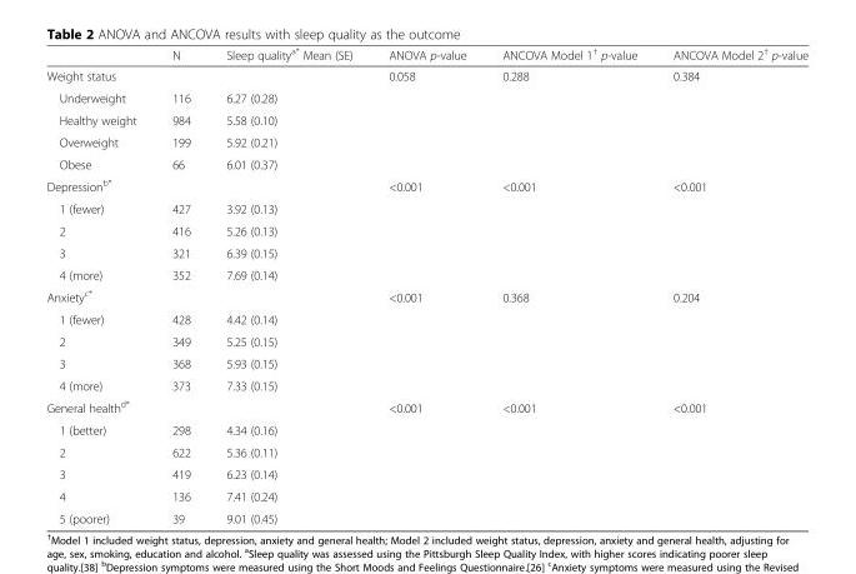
<table><thead><tr><td></td><td>N</td><td>Sleep quality<sup>a*</sup> Mean (SE)</td><td>ANOVA p-value</td><td>ANCOVA Model 1<sup>†</sup> p-value</td><td>ANCOVA Model 2<sup>†</sup> p-value</td></tr></thead><tbody><tr><td>Weight status</td><td></td><td></td><td>0.058</td><td>0.288</td><td>0.384</td></tr><tr><td>Underweight</td><td>116</td><td>6.27 (0.28)</td><td></td><td></td><td></td></tr><tr><td>Healthy weight</td><td>984</td><td>5.58 (0.10)</td><td></td><td></td><td></td></tr><tr><td>Overweight</td><td>199</td><td>5.92 (0.21)</td><td></td><td></td><td></td></tr><tr><td>Obese</td><td>66</td><td>6.01 (0.37)</td><td></td><td></td><td></td></tr><tr><td>Depression<sup>b*</sup></td><td></td><td></td><td>&lt;0.001</td><td>&lt;0.001</td><td>&lt;0.001</td></tr><tr><td>1 (fewer)</td><td>427</td><td>3.92 (0.13)</td><td></td><td></td><td></td></tr><tr><td>2</td><td>416</td><td>5.26 (0.13)</td><td></td><td></td><td></td></tr><tr><td>3</td><td>321</td><td>6.39 (0.15)</td><td></td><td></td><td></td></tr><tr><td>4 (more)</td><td>352</td><td>7.69 (0.14)</td><td></td><td></td><td></td></tr><tr><td>Anxiety<sup>c*</sup></td><td></td><td></td><td>&lt;0.001</td><td>0.368</td><td>0.204</td></tr><tr><td>1 (fewer)</td><td>428</td><td>4.42 (0.14)</td><td></td><td></td><td></td></tr><tr><td>2</td><td>349</td><td>5.25 (0.15)</td><td></td><td></td><td></td></tr><tr><td>3</td><td>368</td><td>5.93 (0.15)</td><td></td><td></td><td></td></tr><tr><td>4 (more)</td><td>373</td><td>7.33 (0.15)</td><td></td><td></td><td></td></tr><tr><td>General health<sup>d*</sup></td><td></td><td></td><td>&lt;0.001</td><td>&lt;0.001</td><td>&lt;0.001</td></tr><tr><td>1 (better)</td><td>298</td><td>4.34 (0.16)</td><td></td><td></td><td></td></tr><tr><td>2</td><td>622</td><td>5.36 (0.11)</td><td></td><td></td><td></td></tr><tr><td>3</td><td>419</td><td>6.23 (0.14)</td><td></td><td></td><td></td></tr><tr><td>4</td><td>136</td><td>7.41 (0.24)</td><td></td><td></td><td></td></tr><tr><td>5 (poorer)</td><td>39</td><td>9.01 (0.45)</td><td></td><td></td><td></td></tr></tbody></table>